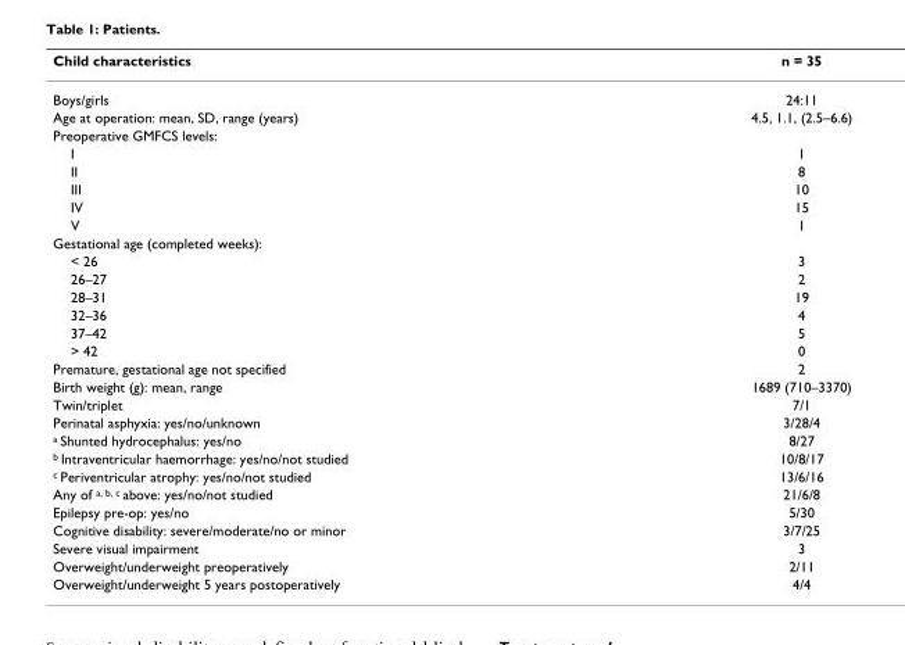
<table><thead><tr><td>Child characteristics</td><td>n = 35</td></tr></thead><tbody><tr><td>Boys/girls</td><td>24:11</td></tr><tr><td>Age at operation: mean, SD, range (years)</td><td>4.5, 1.1, (2.5–6.6)</td></tr><tr><td colspan="2">Preoperative GMFCS levels:</td></tr><tr><td>I</td><td>1</td></tr><tr><td>II</td><td>8</td></tr><tr><td>III</td><td>10</td></tr><tr><td>IV</td><td>15</td></tr><tr><td>V</td><td>1</td></tr><tr><td colspan="2">Gestational age (completed weeks):</td></tr><tr><td>&lt; 26</td><td>3</td></tr><tr><td>26–27</td><td>2</td></tr><tr><td>28–31</td><td>19</td></tr><tr><td>32–36</td><td>4</td></tr><tr><td>37–42</td><td>5</td></tr><tr><td>&gt; 42</td><td>0</td></tr><tr><td>Premature, gestational age not specified</td><td>2</td></tr><tr><td>Birth weight (g): mean, range</td><td>1689 (710–3370)</td></tr><tr><td>Twin/triplet</td><td>7/1</td></tr><tr><td>Perinatal asphyxia: yes/no/unknown</td><td>3/28/4</td></tr><tr><td><sup>a</sup> Shunted hydrocephalus: yes/no</td><td>8/27</td></tr><tr><td><sup>b</sup> Intraventricular haemorrhage: yes/no/not studied</td><td>10/8/17</td></tr><tr><td><sup>c</sup> Periventricular atrophy: yes/no/not studied</td><td>13/6/16</td></tr><tr><td>Any of <sup>a, b, c</sup> above: yes/no/not studied</td><td>21/6/8</td></tr><tr><td>Epilepsy pre-op: yes/no</td><td>5/30</td></tr><tr><td>Cognitive disability: severe/moderate/no or minor</td><td>3/7/25</td></tr><tr><td>Severe visual impairment</td><td>3</td></tr><tr><td>Overweight/underweight preoperatively</td><td>2/11</td></tr><tr><td>Overweight/underweight 5 years postoperatively</td><td>4/4</td></tr></tbody></table>